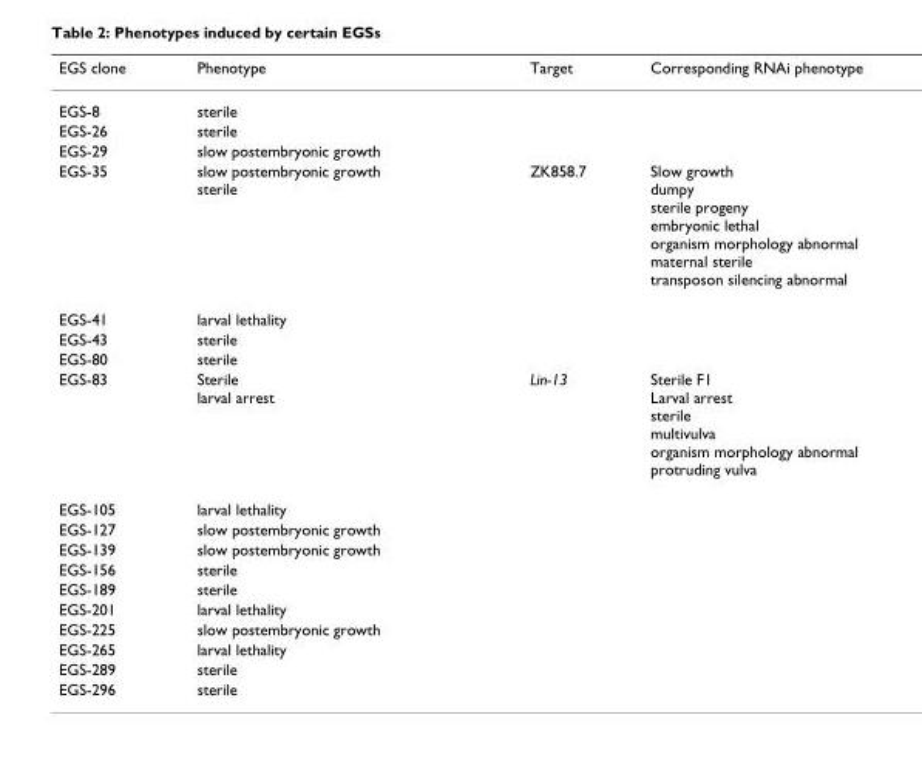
<table><thead><tr><td>EGS clone</td><td>Phenotype</td><td>Target</td><td>Corresponding RNAi phenotype</td></tr></thead><tbody><tr><td>EGS-8</td><td>sterile</td><td></td><td></td></tr><tr><td>EGS-26</td><td>sterile</td><td></td><td></td></tr><tr><td>EGS-29</td><td>slow postembryonic growth</td><td></td><td></td></tr><tr><td>EGS-35</td><td>slow postembryonic growth sterile</td><td>ZK858.7</td><td>Slow growth dumpy sterile progeny embryonic lethal organism morphology abnormal maternal sterile transposon silencing abnormal</td></tr><tr><td>EGS-41</td><td>larval lethality</td><td></td><td></td></tr><tr><td>EGS-43</td><td>sterile</td><td></td><td></td></tr><tr><td>EGS-80</td><td>sterile</td><td></td><td></td></tr><tr><td>EGS-83</td><td>Sterile larval arrest</td><td>Lin-13</td><td>Sterile F1 Larval arrest sterile multivulva organism morphology abnormal protruding vulva</td></tr><tr><td>EGS-105</td><td>larval lethality</td><td></td><td></td></tr><tr><td>EGS-127</td><td>slow postembryonic growth</td><td></td><td></td></tr><tr><td>EGS-139</td><td>slow postembryonic growth</td><td></td><td></td></tr><tr><td>EGS-156</td><td>sterile</td><td></td><td></td></tr><tr><td>EGS-189</td><td>sterile</td><td></td><td></td></tr><tr><td>EGS-201</td><td>larval lethality</td><td></td><td></td></tr><tr><td>EGS-225</td><td>slow postembryonic growth</td><td></td><td></td></tr><tr><td>EGS-265</td><td>larval lethality</td><td></td><td></td></tr><tr><td>EGS-289</td><td>sterile</td><td></td><td></td></tr><tr><td>EGS-296</td><td>sterile</td><td></td><td></td></tr></tbody></table>